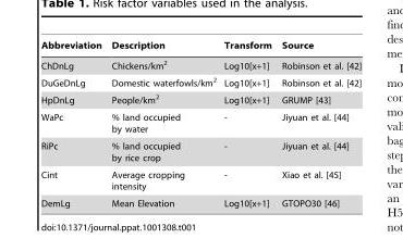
<table><thead><tr><td>Abbreviation</td><td>Description</td><td>Transform</td><td>Source</td></tr></thead><tbody><tr><td>ChDnLg</td><td>Chickens/km<sup>2</sup></td><td>Log10[x+1]</td><td>Robinson et al. [42]</td></tr><tr><td>DuGeDnLg</td><td>Domestic waterfowls/km<sup>2</sup></td><td>Log10[x+1]</td><td>Robinson et al. [42]</td></tr><tr><td>HpDnLg</td><td>People/km<sup>2</sup></td><td>Log10[x+1]</td><td>GRUMP [43]</td></tr><tr><td>WaPc</td><td>% land occupied by water</td><td>-</td><td>Jiyuan et al. [44]</td></tr><tr><td>RiPc</td><td>% land occupied by rice crop</td><td>-</td><td>Jiyuan et al. [44]</td></tr><tr><td>Cint</td><td>Average cropping intensity</td><td>-</td><td>Xiao et al. [45]</td></tr><tr><td>DemLg</td><td>Mean Elevation</td><td>Log10[x+1]</td><td>GTOPO30 [46]</td></tr></tbody></table>